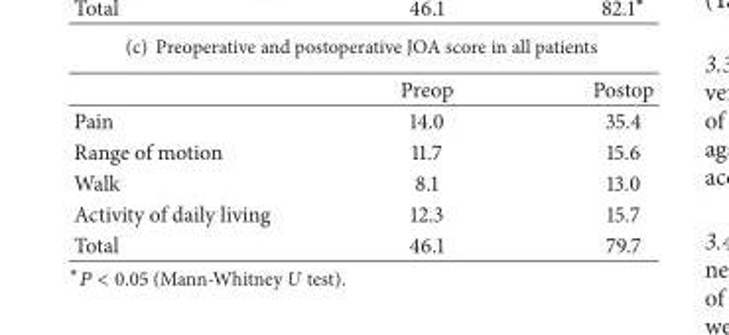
<table><thead><tr><td></td><td>Preop</td><td>Postop</td></tr></thead><tbody><tr><td>Pain</td><td>14.0</td><td>35.4</td></tr><tr><td>Range of motion</td><td>11.7</td><td>15.6</td></tr><tr><td>Walk</td><td>8.1</td><td>13.0</td></tr><tr><td>Activity of daily living</td><td>12.3</td><td>15.7</td></tr><tr><td>Total</td><td>46.1</td><td>79.7</td></tr></tbody></table>